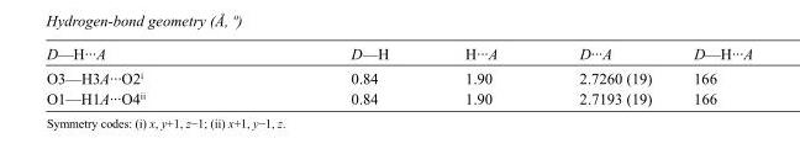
<table><tbody><tr><td>D—H···A</td><td>D—H</td><td>H···A</td><td>D···A</td><td>D—H···A</td></tr><tr><td>O3—H3A···O2<sup>i</sup></td><td>0.84</td><td>1.90</td><td>2.7260 (19)</td><td>166</td></tr><tr><td>O1—H1A···O4<sup>ii</sup></td><td>0.84</td><td>1.90</td><td>2.7193 (19)</td><td>166</td></tr></tbody></table>